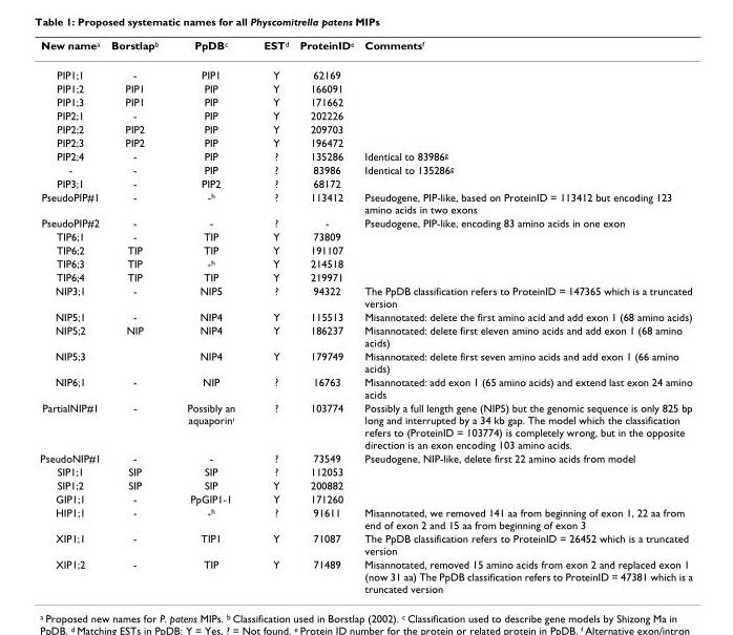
<table><thead><tr><td>New name<sup>a</sup></td><td>Borstlap<sup>b</sup></td><td>PpDB<sup>c</sup></td><td>EST<sup>d</sup></td><td>ProteinID<sup>e</sup></td><td>Comments<sup>f</sup></td></tr></thead><tbody><tr><td>PIP1;1</td><td>-</td><td>PIP1</td><td>Y</td><td>62169</td><td></td></tr><tr><td>PIP1;2</td><td>PIP1</td><td>PIP</td><td>Y</td><td>166091</td><td></td></tr><tr><td>PIP1;3</td><td>PIP1</td><td>PIP</td><td>Y</td><td>171662</td><td></td></tr><tr><td>PIP2;1</td><td>-</td><td>PIP</td><td>Y</td><td>202226</td><td></td></tr><tr><td>PIP2;2</td><td>PIP2</td><td>PIP</td><td>Y</td><td>209703</td><td></td></tr><tr><td>PIP2;3</td><td>PIP2</td><td>PIP</td><td>Y</td><td>196472</td><td></td></tr><tr><td>PIP2;4</td><td>-</td><td>PIP</td><td>?</td><td>135286</td><td>Identical to 83986<sup>g</sup></td></tr><tr><td>-</td><td>-</td><td>PIP</td><td>?</td><td>83986</td><td>Identical to 135286<sup>g</sup></td></tr><tr><td>PIP3;1</td><td>-</td><td>PIP2</td><td>?</td><td>68172</td><td></td></tr><tr><td>PseudoPIP#1</td><td>-</td><td>-<sup>h</sup></td><td>?</td><td>113412</td><td>Pseudogene, PIP-like, based on ProteinID = 113412 but encoding 123 amino acids in two exons</td></tr><tr><td>PseudoPIP#2</td><td>-</td><td>-</td><td>?</td><td>-</td><td>Pseudogene, PIP-like, encoding 83 amino acids in one exon</td></tr><tr><td>TIP6;1</td><td>-</td><td>TIP</td><td>Y</td><td>73809</td><td></td></tr><tr><td>TIP6;2</td><td>TIP</td><td>TIP</td><td>Y</td><td>191107</td><td></td></tr><tr><td>TIP6;3</td><td>TIP</td><td>-<sup>h</sup></td><td>Y</td><td>214518</td><td></td></tr><tr><td>TIP6;4</td><td>TIP</td><td>TIP</td><td>Y</td><td>219971</td><td></td></tr><tr><td>NIP3;1</td><td>-</td><td>NIP5</td><td>?</td><td>94322</td><td>The PpDB classification refers to ProteinID = 147365 which is a truncated version</td></tr><tr><td>NIP5;1</td><td>-</td><td>NIP4</td><td>Y</td><td>115513</td><td>Misannotated: delete the first amino acid and add exon 1 (68 amino acids)</td></tr><tr><td>NIP5;2</td><td>NIP</td><td>NIP4</td><td>Y</td><td>186237</td><td>Misannotated: delete first eleven amino acids and add exon 1 (68 amino acids)</td></tr><tr><td>NIP5;3</td><td></td><td>NIP4</td><td>Y</td><td>179749</td><td>Misannotated: delete first seven amino acids and add exon 1 (66 amino acids)</td></tr><tr><td>NIP6;1</td><td>-</td><td>NIP</td><td>?</td><td>16763</td><td>Misannotated: add exon 1 (65 amino acids) and extend last exon 24 amino acids</td></tr><tr><td>PartialNIP#1</td><td>-</td><td>Possibly an aquaporin<sup>i</sup></td><td>?</td><td>103774</td><td>Possibly a full length gene (NIP5) but the genomic sequence is only 825 bp long and interrupted by a 34 kb gap. The model which the classification refers to (ProteinID = 103774) is completely wrong, but in the opposite direction is an exon encoding 103 amino acids.</td></tr><tr><td>PseudoNIP#1</td><td>-</td><td>-</td><td>?</td><td>73549</td><td>Pseudogene, NIP-like, delete first 22 amino acids from model</td></tr><tr><td>SIP1;1</td><td>SIP</td><td>SIP</td><td>?</td><td>112053</td><td></td></tr><tr><td>SIP1;2</td><td>SIP</td><td>SIP</td><td>Y</td><td>200882</td><td></td></tr><tr><td>GIP1;1</td><td>-</td><td>PpGlP1-1</td><td>Y</td><td>171260</td><td></td></tr><tr><td>HIP1;1</td><td>-</td><td>-<sup>h</sup></td><td>?</td><td>91611</td><td>Misannotated, we removed 141 aa from beginning of exon 1, 22 aa from end of exon 2 and 15 aa from beginning of exon 3</td></tr><tr><td>XIP1;1</td><td>-</td><td>TIP1</td><td>Y</td><td>71087</td><td>The PpDB classification refers to ProteinID = 26452 which is a truncated version</td></tr><tr><td>XIP1;2</td><td>-</td><td>TIP</td><td>Y</td><td>71489</td><td>Misannotated, removed 15 amino acids from exon 2 and replaced exon 1 (now 31 aa) The PpDB classification refers to ProteinID = 47381 which is a truncated version</td></tr></tbody></table>